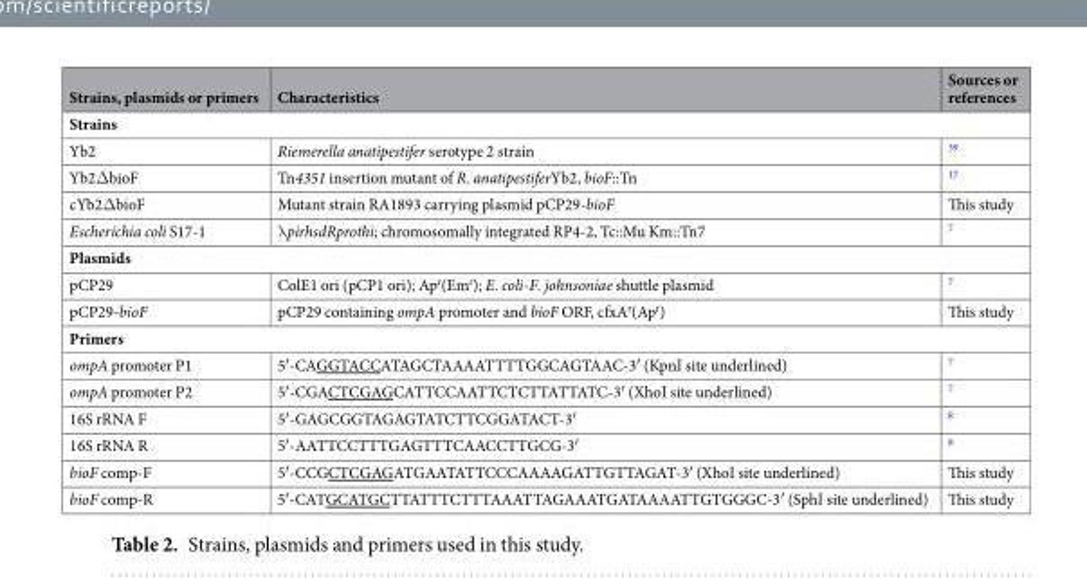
<table><thead><tr><td>Strains, plasmids or primers</td><td>Characteristics</td><td>Sources or references</td></tr></thead><tbody><tr><td colspan="3">Strains</td></tr><tr><td>Yb2</td><td>Riemerella anatipestifer serotype 2 strain</td><td><sup>39</sup></td></tr><tr><td>Yb2ΔbioF</td><td>Tn4351 insertion mutant of R. anatipestiferYb2, bioF::Tn</td><td><sup>17</sup></td></tr><tr><td>cYb2ΔbioF</td><td>Mutant strain RA1893 carrying plasmid pCP29-bioF</td><td>This study</td></tr><tr><td>Escherichia coli S17-1</td><td>λpirhsdRprothi; chromosomally integrated RP4-2, Tc::Mu Km::Tn7</td><td><sup>7</sup></td></tr><tr><td colspan="3">Plasmids</td></tr><tr><td>pCP29</td><td>ColE1 ori (pCP1 ori); Ap<sup>r</sup>(Em<sup>r</sup>); E. coli-F. johnsoniae shuttle plasmid</td><td><sup>7</sup></td></tr><tr><td>pCP29-bioF</td><td>pCP29 containing ompA promoter and bioF ORF, cfxA<sup>r</sup>(Ap<sup>r</sup>)</td><td>This study</td></tr><tr><td colspan="3">Primers</td></tr><tr><td>ompA promoter P1</td><td>5′-CAGGTACCATAGCTAAAATTTTGGCAGTAAC-3′ (KpnΙ site underlined)</td><td><sup>7</sup></td></tr><tr><td>ompA promoter P2</td><td>5′-CGACTCGAGCATTCCAATTCTCTTATTATC-3′ (XhoΙ site underlined)</td><td><sup>7</sup></td></tr><tr><td>16S rRNA F</td><td>5′-GAGCGGTAGAGTATCTTCGGATACT-3′</td><td><sup>8</sup></td></tr><tr><td>16S rRNA R</td><td>5′-AATTCCTTTGAGTTTCAACCTTGCG-3′</td><td><sup>8</sup></td></tr><tr><td>bioF comp-F</td><td>5′-CCGCTCGAGATGAATATTCCCAAAAGATTGTTAGAT-3′ (XhoΙ site underlined)</td><td>This study</td></tr><tr><td>bioF comp-R</td><td>5′-CATGCATGCTTATTTCTTTAAATTAGAAATGATAAAATTGTGGGC-3′ (SphΙ site underlined)</td><td>This study</td></tr></tbody></table>